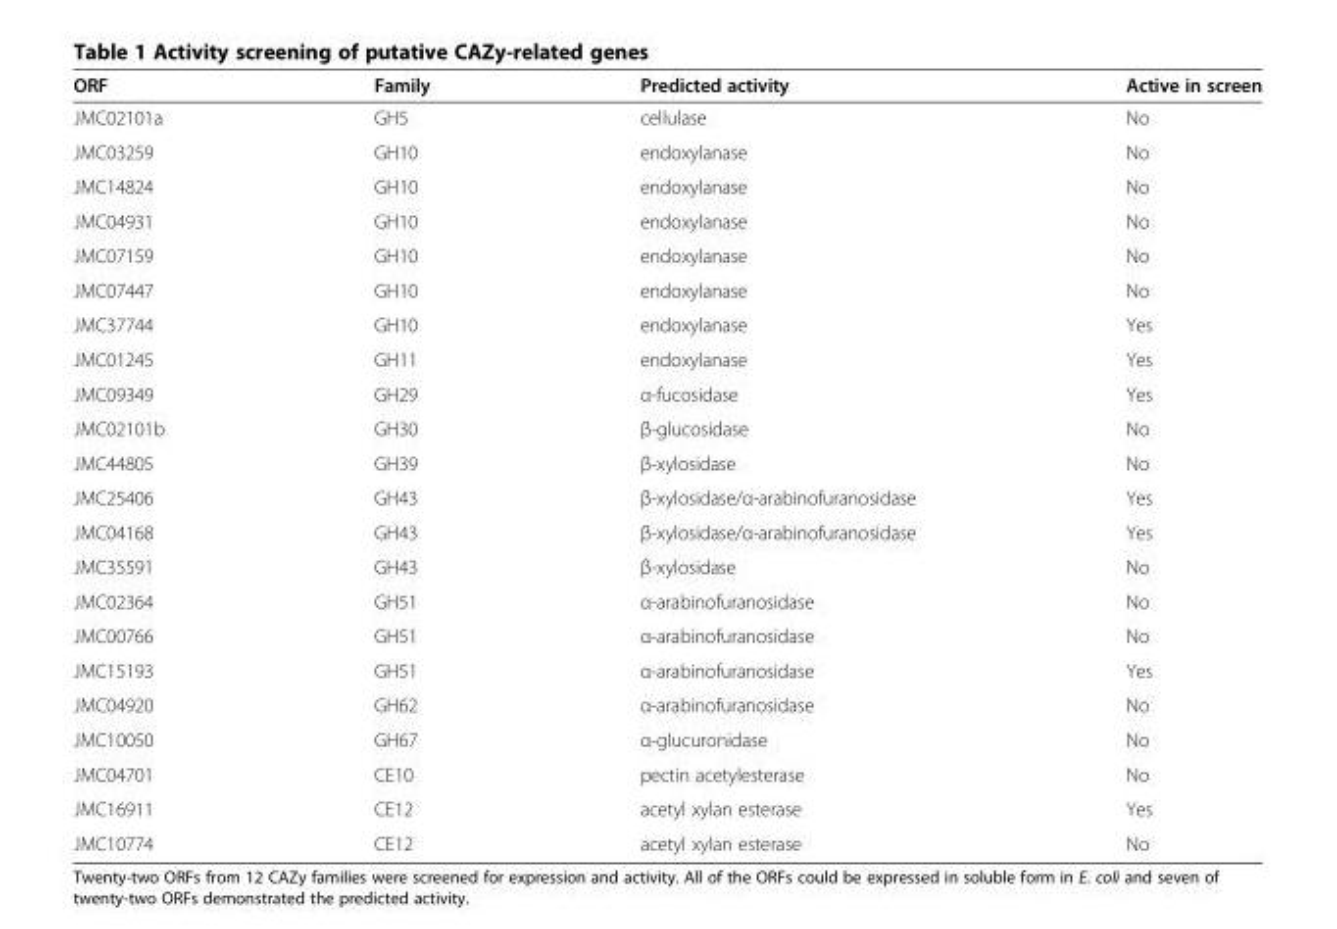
<table><thead><tr><td>ORF</td><td>Family</td><td>Predicted activity</td><td>Active in screen</td></tr></thead><tbody><tr><td>JMC02101a</td><td>GH5</td><td>cellulase</td><td>No</td></tr><tr><td>JMC03259</td><td>GH10</td><td>endoxylanase</td><td>No</td></tr><tr><td>JMC14824</td><td>GH10</td><td>endoxylanase</td><td>No</td></tr><tr><td>JMC04931</td><td>GH10</td><td>endoxylanase</td><td>No</td></tr><tr><td>JMC07159</td><td>GH10</td><td>endoxylanase</td><td>No</td></tr><tr><td>JMC07447</td><td>GH10</td><td>endoxylanase</td><td>No</td></tr><tr><td>JMC37744</td><td>GH10</td><td>endoxylanase</td><td>Yes</td></tr><tr><td>JMC01245</td><td>GH11</td><td>endoxylanase</td><td>Yes</td></tr><tr><td>JMC09349</td><td>GH29</td><td>α-fucosidase</td><td>Yes</td></tr><tr><td>JMC02101b</td><td>GH30</td><td>β-glucosidase</td><td>No</td></tr><tr><td>JMC44805</td><td>GH39</td><td>β-xylosidase</td><td>No</td></tr><tr><td>JMC25406</td><td>GH43</td><td>β-xylosidase/α-arabinofuranosidase</td><td>Yes</td></tr><tr><td>JMC04168</td><td>GH43</td><td>β-xylosidase/α-arabinofuranosidase</td><td>Yes</td></tr><tr><td>JMC35591</td><td>GH43</td><td>β-xylosidase</td><td>No</td></tr><tr><td>JMC02364</td><td>GH51</td><td>α-arabinofuranosidase</td><td>No</td></tr><tr><td>JMC00766</td><td>GH51</td><td>α-arabinofuranosidase</td><td>No</td></tr><tr><td>JMC15193</td><td>GH51</td><td>α-arabinofuranosidase</td><td>Yes</td></tr><tr><td>JMC04920</td><td>GH62</td><td>α-arabinofuranosidase</td><td>No</td></tr><tr><td>JMC10050</td><td>GH67</td><td>α-glucuronidase</td><td>No</td></tr><tr><td>JMC04701</td><td>CE10</td><td>pectin acetylesterase</td><td>No</td></tr><tr><td>JMC16911</td><td>CE12</td><td>acetyl xylan esterase</td><td>Yes</td></tr><tr><td>JMC10774</td><td>CE12</td><td>acetyl xylan esterase</td><td>No</td></tr></tbody></table>